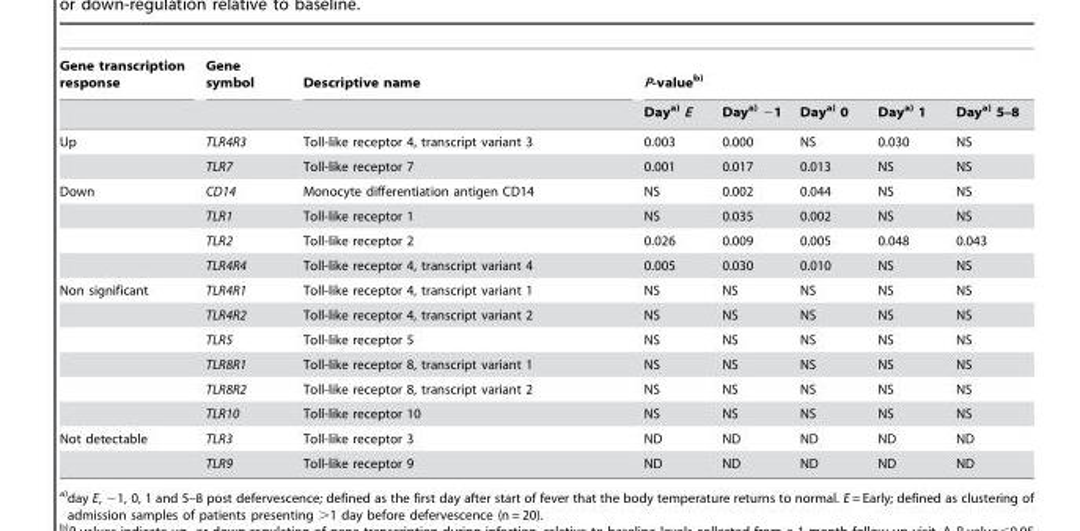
<table><thead><tr><td rowspan="2">Gene transcription response</td><td rowspan="2">Gene symbol</td><td rowspan="2">Descriptive name</td><td colspan="5">P-valueb)</td></tr><tr><td>Daya) E</td><td>Daya) −1</td><td>Daya) 0</td><td>Daya) 1</td><td>Daya) 5–8</td></tr></thead><tbody><tr><td rowspan="2">Up</td><td>TLR4R3</td><td>Toll-like receptor 4, transcript variant 3</td><td>0.003</td><td>0.000</td><td>NS</td><td>0.030</td><td>NS</td></tr><tr><td>TLR7</td><td>Toll-like receptor 7</td><td>0.001</td><td>0.017</td><td>0.013</td><td>NS</td><td>NS</td></tr><tr><td rowspan="4">Down</td><td>CD14</td><td>Monocyte differentiation antigen CD14</td><td>NS</td><td>0.002</td><td>0.044</td><td>NS</td><td>NS</td></tr><tr><td>TLR1</td><td>Toll-like receptor 1</td><td>NS</td><td>0.035</td><td>0.002</td><td>NS</td><td>NS</td></tr><tr><td>TLR2</td><td>Toll-like receptor 2</td><td>0.026</td><td>0.009</td><td>0.005</td><td>0.048</td><td>0.043</td></tr><tr><td>TLR4R4</td><td>Toll-like receptor 4, transcript variant 4</td><td>0.005</td><td>0.030</td><td>0.010</td><td>NS</td><td>NS</td></tr><tr><td rowspan="6">Non significant</td><td>TLR4R1</td><td>Toll-like receptor 4, transcript variant 1</td><td>NS</td><td>NS</td><td>NS</td><td>NS</td><td>NS</td></tr><tr><td>TLR4R2</td><td>Toll-like receptor 4, transcript variant 2</td><td>NS</td><td>NS</td><td>NS</td><td>NS</td><td>NS</td></tr><tr><td>TLR5</td><td>Toll-like receptor 5</td><td>NS</td><td>NS</td><td>NS</td><td>NS</td><td>NS</td></tr><tr><td>TLR8R1</td><td>Toll-like receptor 8, transcript variant 1</td><td>NS</td><td>NS</td><td>NS</td><td>NS</td><td>NS</td></tr><tr><td>TLR8R2</td><td>Toll-like receptor 8, transcript variant 2</td><td>NS</td><td>NS</td><td>NS</td><td>NS</td><td>NS</td></tr><tr><td>TLR10</td><td>Toll-like receptor 10</td><td>NS</td><td>NS</td><td>NS</td><td>NS</td><td>NS</td></tr><tr><td rowspan="2">Not detectable</td><td>TLR3</td><td>Toll-like receptor 3</td><td>ND</td><td>ND</td><td>ND</td><td>ND</td><td>ND</td></tr><tr><td>TLR9</td><td>Toll-like receptor 9</td><td>ND</td><td>ND</td><td>ND</td><td>ND</td><td>ND</td></tr></tbody></table>